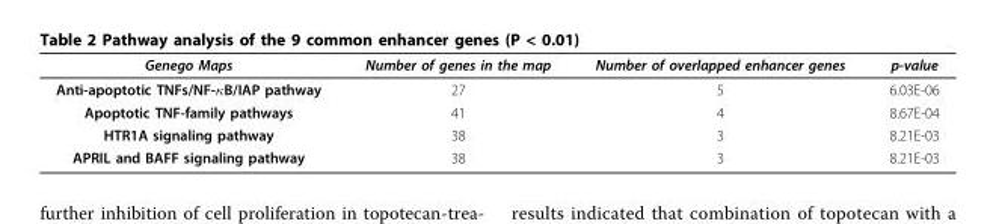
<table><thead><tr><td>Genego Maps</td><td>Number of genes in the map</td><td>Number of overlapped enhancer genes</td><td>p-value</td></tr></thead><tbody><tr><td>Anti-apoptotic TNFs/NF-κB/IAP pathway</td><td>27</td><td>5</td><td>6.03E-06</td></tr><tr><td>Apoptotic TNF-family pathways</td><td>41</td><td>4</td><td>8.67E-04</td></tr><tr><td>HTR1A signaling pathway</td><td>38</td><td>3</td><td>8.21E-03</td></tr><tr><td>APRIL and BAFF signaling pathway</td><td>38</td><td>3</td><td>8.21E-03</td></tr></tbody></table>